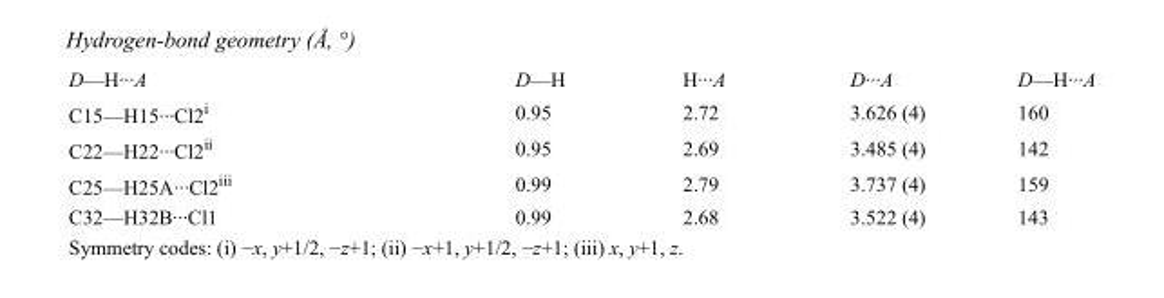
<table><tbody><tr><td>D—H···A</td><td>D—H</td><td>H···A</td><td>D···A</td><td>D—H···A</td></tr><tr><td>C15—H15···Cl2<sup>i</sup></td><td>0.95</td><td>2.72</td><td>3.626 (4)</td><td>160</td></tr><tr><td>C22—H22···Cl2<sup>ii</sup></td><td>0.95</td><td>2.69</td><td>3.485 (4)</td><td>142</td></tr><tr><td>C25—H25A···Cl2<sup>iii</sup></td><td>0.99</td><td>2.79</td><td>3.737 (4)</td><td>159</td></tr><tr><td>C32—H32B···Cl1</td><td>0.99</td><td>2.68</td><td>3.522 (4)</td><td>143</td></tr></tbody></table>